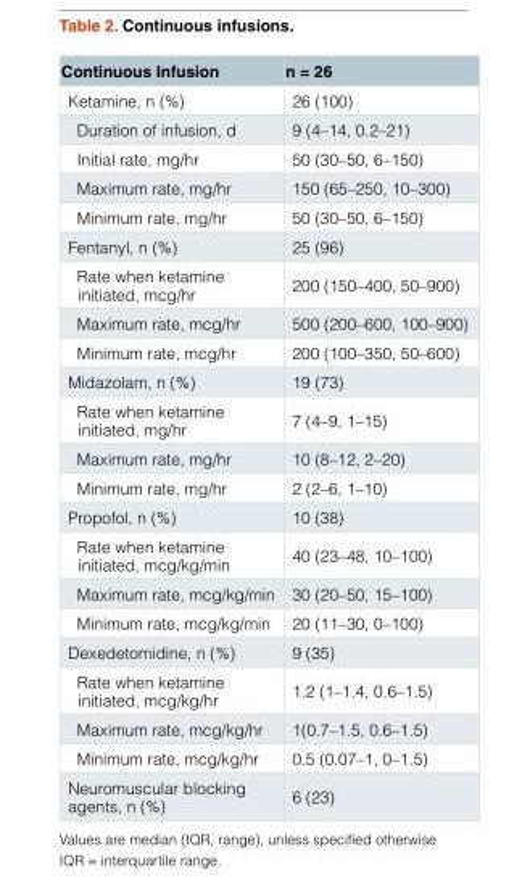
<table><thead><tr><td>Continuous Infusion</td><td>n = 26</td></tr></thead><tbody><tr><td>Ketamine, n (%)</td><td>26 (100)</td></tr><tr><td>Duration of infusion, d</td><td>9 (4–14, 0.2–21)</td></tr><tr><td>Initial rate, mg/hr</td><td>50 (30–50, 6–150)</td></tr><tr><td>Maximum rate, mg/hr</td><td>150 (65–250, 10–300)</td></tr><tr><td>Minimum rate, mg/hr</td><td>50 (30–50, 6–150)</td></tr><tr><td>Fentanyl, n (%)</td><td>25 (96)</td></tr><tr><td>Rate when ketamine initiated, mcg/hr</td><td>200 (150–400, 50–900)</td></tr><tr><td>Maximum rate, mcg/hr</td><td>500 (200–600, 100–900)</td></tr><tr><td>Minimum rate, mcg/hr</td><td>200 (100–350, 50–600)</td></tr><tr><td>Midazolam, n (%)</td><td>19 (73)</td></tr><tr><td>Rate when ketamine initiated, mg/hr</td><td>7 (4–9, 1–15)</td></tr><tr><td>Maximum rate, mg/hr</td><td>10 (8–12, 2–20)</td></tr><tr><td>Minimum rate, mg/hr</td><td>2 (2–6, 1–10)</td></tr><tr><td>Propofol, n (%)</td><td>10 (38)</td></tr><tr><td>Rate when ketamine initiated, mcg/kg/min</td><td>40 (23–48, 10–100)</td></tr><tr><td>Maximum rate, mcg/kg/min</td><td>30 (20–50, 15–100)</td></tr><tr><td>Minimum rate, mcg/kg/min</td><td>20 (11–30, 0–100)</td></tr><tr><td>Dexedetomidine, n (%)</td><td>9 (35)</td></tr><tr><td>Rate when ketamine initiated, mcg/kg/hr</td><td>1.2 (1–1.4, 0.6–1.5)</td></tr><tr><td>Maximum rate, mcg/kg/hr</td><td>1(0.7–1.5, 0.6–1.5)</td></tr><tr><td>Minimum rate, mcg/kg/hr</td><td>0.5 (0.07–1, 0–1.5)</td></tr><tr><td>Neuromuscular blocking agents, n (%)</td><td>6 (23)</td></tr></tbody></table>